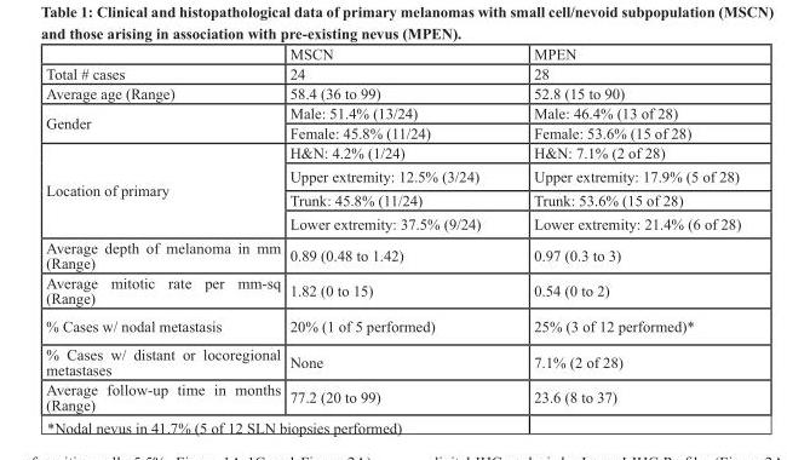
<table><thead><tr><td></td><td>MSCN</td><td>MPEN</td></tr></thead><tbody><tr><td>Total # cases</td><td>24</td><td>28</td></tr><tr><td>Average age (Range)</td><td>58.4 (36 to 99)</td><td>52.8 (15 to 90)</td></tr><tr><td rowspan="2">Gender</td><td>Male: 51.4% (13/24)</td><td>Male: 46.4% (13 of 28)</td></tr><tr><td>Female: 45.8% (11/24)</td><td>Female: 53.6% (15 of 28)</td></tr><tr><td rowspan="4">Location of primary</td><td>H&amp;N: 4.2% (1/24)</td><td>H&amp;N: 7.1% (2 of 28)</td></tr><tr><td>Upper extremity: 12.5% (3/24)</td><td>Upper extremity: 17.9% (5 of 28)</td></tr><tr><td>Trunk: 45.8% (11/24)</td><td>Trunk: 53.6% (15 of 28)</td></tr><tr><td>Lower extremity: 37.5% (9/24)</td><td>Lower extremity: 21.4% (6 of 28)</td></tr><tr><td>Average depth of melanoma in mm (Range)</td><td>0.89 (0.48 to 1.42)</td><td>0.97 (0.3 to 3)</td></tr><tr><td>Average mitotic rate per mm-sq (Range)</td><td>1.82 (0 to 15)</td><td>0.54 (0 to 2)</td></tr><tr><td>% Cases w/ nodal metastasis</td><td>20% (1 of 5 performed)</td><td>25% (3 of 12 performed)*</td></tr><tr><td>% Cases w/ distant or locoregional metastases</td><td>None</td><td>7.1% (2 of 28)</td></tr><tr><td>Average follow-up time in months (Range)</td><td>77.2 (20 to 99)</td><td>23.6 (8 to 37)</td></tr></tbody></table>